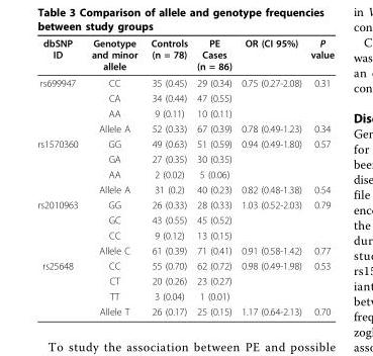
<table><thead><tr><td>dbSNP ID</td><td>Genotype and minor allele</td><td>Controls (n = 78)</td><td>PE Cases (n = 86)</td><td>OR (CI 95%)</td><td>P value</td></tr></thead><tbody><tr><td rowspan="4">rs699947</td><td>CC</td><td>35 (0.45)</td><td>29 (0.34)</td><td>0.75 (0.27-2.08)</td><td>0.31</td></tr><tr><td>CA</td><td>34 (0.44)</td><td>47 (0.55)</td><td></td><td></td></tr><tr><td>AA</td><td>9 (0.11)</td><td>10 (0.11)</td><td></td><td></td></tr><tr><td>Allele A</td><td>52 (0.33)</td><td>67 (0.39)</td><td>0.78 (0.49-1.23)</td><td>0.34</td></tr><tr><td rowspan="4">rs1570360</td><td>GG</td><td>49 (0.63)</td><td>51 (0.59)</td><td>0.94 (0.49-1.80)</td><td>0.57</td></tr><tr><td>GA</td><td>27 (0.35)</td><td>30 (0.35)</td><td></td><td></td></tr><tr><td>AA</td><td>2 (0.02)</td><td>5 (0.06)</td><td></td><td></td></tr><tr><td>Allele A</td><td>31 (0.2)</td><td>40 (0.23)</td><td>0.82 (0.48-1.38)</td><td>0.54</td></tr><tr><td rowspan="4">rs2010963</td><td>GG</td><td>26 (0.33)</td><td>28 (0.33)</td><td>1.03 (0.52-2.03)</td><td>0.79</td></tr><tr><td>GC</td><td>43 (0.55)</td><td>45 (0.52)</td><td></td><td></td></tr><tr><td>CC</td><td>9 (0.12)</td><td>13 (0.15)</td><td></td><td></td></tr><tr><td>Allele C</td><td>61 (0.39)</td><td>71 (0.41)</td><td>0.91 (0.58-1.42)</td><td>0.77</td></tr><tr><td rowspan="4">rs25648</td><td>CC</td><td>55 (0.70)</td><td>62 (0.72)</td><td>0.98 (0.49-1.98)</td><td>0.53</td></tr><tr><td>CT</td><td>20 (0.26)</td><td>23 (0.27)</td><td></td><td></td></tr><tr><td>TT</td><td>3 (0.04)</td><td>1 (0.01)</td><td></td><td></td></tr><tr><td>Allele T</td><td>26 (0.17)</td><td>25 (0.15)</td><td>1.17 (0.64-2.13)</td><td>0.70</td></tr></tbody></table>